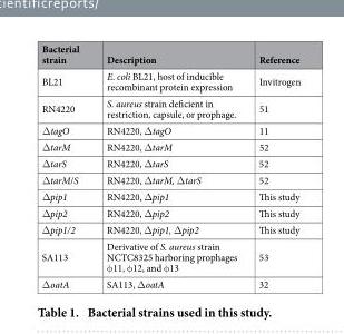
<table><thead><tr><td>Bacterial strain</td><td>Description</td><td>Reference</td></tr></thead><tbody><tr><td>BL21</td><td>E. coli BL21, host of inducible recombinant protein expression</td><td>Invitrogen</td></tr><tr><td>RN4220</td><td>S. aureus strain deficient in restriction, capsule, or prophage.</td><td>51</td></tr><tr><td>Δ tagO</td><td>RN4220, Δ tagO</td><td>11</td></tr><tr><td>Δ tarM</td><td>RN4220, Δ tarM</td><td>52</td></tr><tr><td>Δ tarS</td><td>RN4220, Δ tarS</td><td>52</td></tr><tr><td>Δ tarM/S</td><td>RN4220, Δ tarM, Δ tarS</td><td>52</td></tr><tr><td>Δ pip1</td><td>RN4220, Δ pip1</td><td>This study</td></tr><tr><td>Δ pip2</td><td>RN4220, Δ pip2</td><td>This study</td></tr><tr><td>Δ pip1/2</td><td>RN4220, Δ pip1, Δ pip2</td><td>This study</td></tr><tr><td>SA113</td><td>Derivative of S. aureus strain NCTC8325 harboring prophages φ 11, φ 12, and φ 13</td><td>53</td></tr><tr><td>Δ oatA</td><td>SA113, Δ oatA</td><td>32</td></tr></tbody></table>